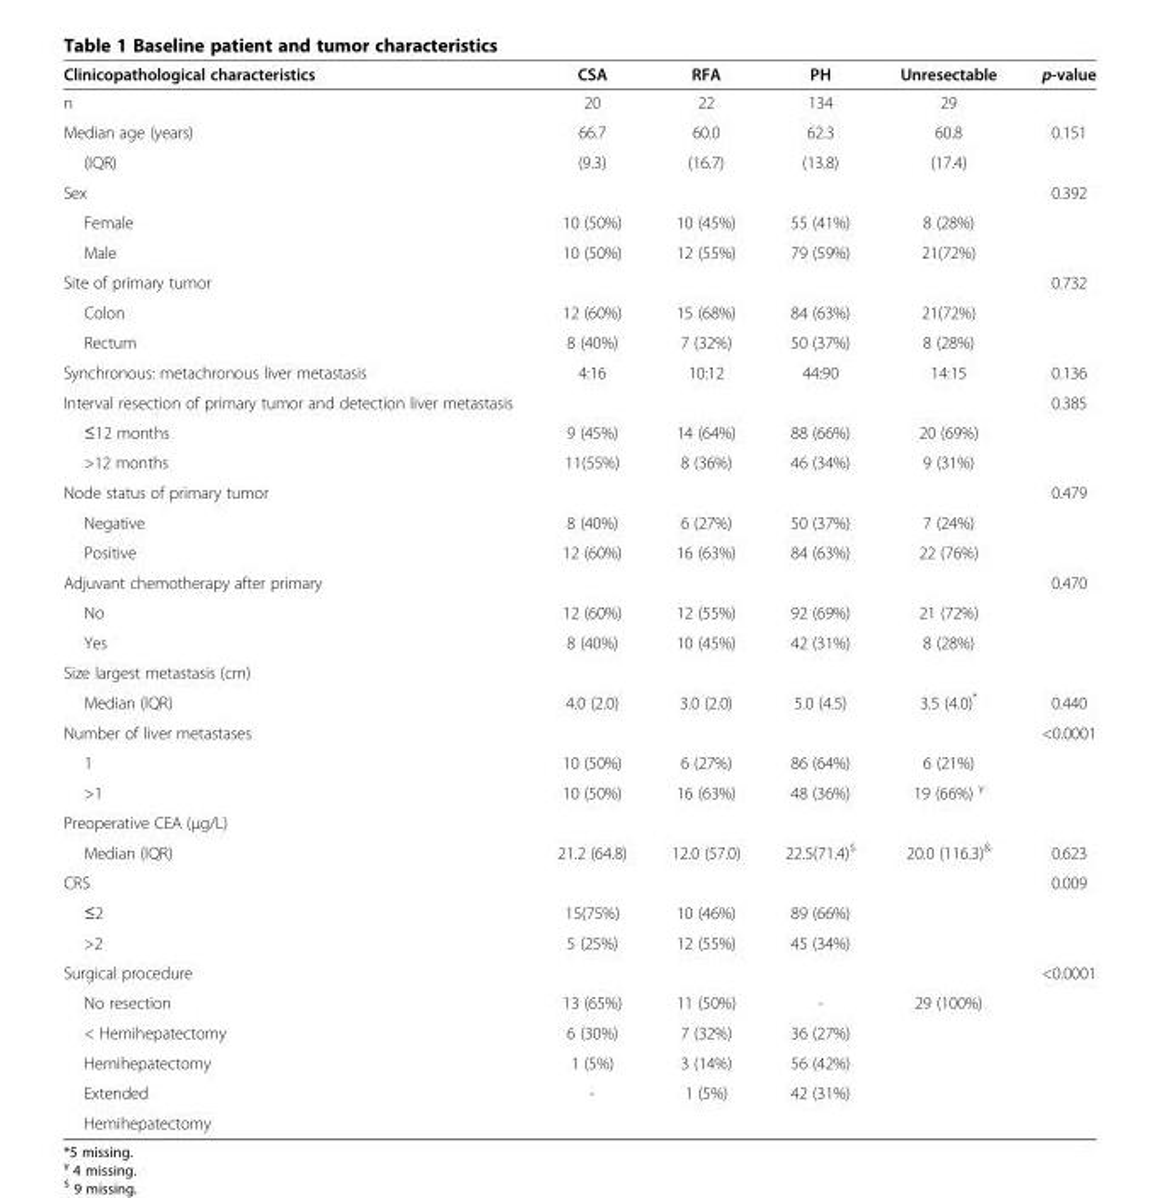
<table><thead><tr><td>Clinicopathological characteristics</td><td>CSA</td><td>RFA</td><td>PH</td><td>Unresectable</td><td>p-value</td></tr></thead><tbody><tr><td>n</td><td>20</td><td>22</td><td>134</td><td>29</td><td></td></tr><tr><td>Median age (years)</td><td>66.7</td><td>60.0</td><td>62.3</td><td>60.8</td><td>0.151</td></tr><tr><td>(IQR)</td><td>(9.3)</td><td>(16.7)</td><td>(13.8)</td><td>(17.4)</td><td></td></tr><tr><td>Sex</td><td></td><td></td><td></td><td></td><td>0.392</td></tr><tr><td>Female</td><td>10 (50%)</td><td>10 (45%)</td><td>55 (41%)</td><td>8 (28%)</td><td></td></tr><tr><td>Male</td><td>10 (50%)</td><td>12 (55%)</td><td>79 (59%)</td><td>21(72%)</td><td></td></tr><tr><td>Site of primary tumor</td><td></td><td></td><td></td><td></td><td>0.732</td></tr><tr><td>Colon</td><td>12 (60%)</td><td>15 (68%)</td><td>84 (63%)</td><td>21(72%)</td><td></td></tr><tr><td>Rectum</td><td>8 (40%)</td><td>7 (32%)</td><td>50 (37%)</td><td>8 (28%)</td><td></td></tr><tr><td>Synchronous: metachronous liver metastasis</td><td>4:16</td><td>10:12</td><td>44:90</td><td>14:15</td><td>0.136</td></tr><tr><td>Interval resection of primary tumor and detection liver metastasis</td><td></td><td></td><td></td><td></td><td>0.385</td></tr><tr><td>≤12 months</td><td>9 (45%)</td><td>14 (64%)</td><td>88 (66%)</td><td>20 (69%)</td><td></td></tr><tr><td>&gt;12 months</td><td>11(55%)</td><td>8 (36%)</td><td>46 (34%)</td><td>9 (31%)</td><td></td></tr><tr><td>Node status of primary tumor</td><td></td><td></td><td></td><td></td><td>0.479</td></tr><tr><td>Negative</td><td>8 (40%)</td><td>6 (27%)</td><td>50 (37%)</td><td>7 (24%)</td><td></td></tr><tr><td>Positive</td><td>12 (60%)</td><td>16 (63%)</td><td>84 (63%)</td><td>22 (76%)</td><td></td></tr><tr><td>Adjuvant chemotherapy after primary</td><td></td><td></td><td></td><td></td><td>0.470</td></tr><tr><td>No</td><td>12 (60%)</td><td>12 (55%)</td><td>92 (69%)</td><td>21 (72%)</td><td></td></tr><tr><td>Yes</td><td>8 (40%)</td><td>10 (45%)</td><td>42 (31%)</td><td>8 (28%)</td><td></td></tr><tr><td colspan="6">Size largest metastasis (cm)</td></tr><tr><td>Median (IQR)</td><td>4.0 (2.0)</td><td>3.0 (2.0)</td><td>5.0 (4.5)</td><td>3.5 (4.0)*</td><td>0.440</td></tr><tr><td>Number of liver metastases</td><td></td><td></td><td></td><td></td><td>&lt;0.0001</td></tr><tr><td>1</td><td>10 (50%)</td><td>6 (27%)</td><td>86 (64%)</td><td>6 (21%)</td><td></td></tr><tr><td>&gt;1</td><td>10 (50%)</td><td>16 (63%)</td><td>48 (36%)</td><td>19 (66%) <sup>γ</sup></td><td></td></tr><tr><td colspan="6">Preoperative CEA (μg/L)</td></tr><tr><td>Median (IQR)</td><td>21.2 (64.8)</td><td>12.0 (57.0)</td><td>22.5(71.4)<sup>$</sup></td><td>20.0 (116.3)<sup>&amp;</sup></td><td>0.623</td></tr><tr><td>CRS</td><td></td><td></td><td></td><td></td><td>0.009</td></tr><tr><td>≤2</td><td>15(75%)</td><td>10 (46%)</td><td>89 (66%)</td><td></td><td></td></tr><tr><td>&gt;2</td><td>5 (25%)</td><td>12 (55%)</td><td>45 (34%)</td><td></td><td></td></tr><tr><td>Surgical procedure</td><td></td><td></td><td></td><td></td><td>&lt;0.0001</td></tr><tr><td>No resection</td><td>13 (65%)</td><td>11 (50%)</td><td>-</td><td>29 (100%)</td><td></td></tr><tr><td>&lt; Hemihepatectomy</td><td>6 (30%)</td><td>7 (32%)</td><td>36 (27%)</td><td></td><td></td></tr><tr><td>Hemihepatectomy</td><td>1 (5%)</td><td>3 (14%)</td><td>56 (42%)</td><td></td><td></td></tr><tr><td>Extended</td><td>-</td><td>1 (5%)</td><td>42 (31%)</td><td></td><td></td></tr><tr><td>Hemihepatectomy</td><td></td><td></td><td></td><td></td><td></td></tr></tbody></table>